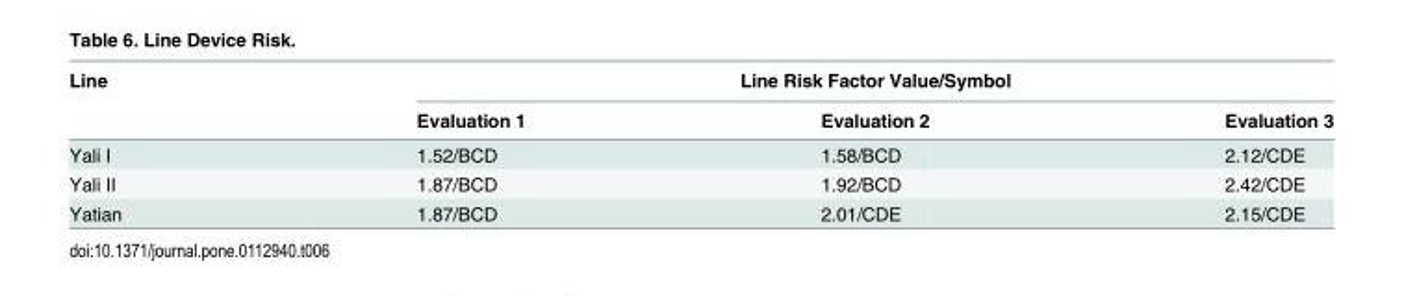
<table><thead><tr><td rowspan="2">Line</td><td colspan="3">Line Risk Factor Value/Symbol</td></tr><tr><td>Evaluation 1</td><td>Evaluation 2</td><td>Evaluation 3</td></tr></thead><tbody><tr><td>Yali I</td><td>1.52/BCD</td><td>1.58/BCD</td><td>2.12/CDE</td></tr><tr><td>Yali II</td><td>1.87/BCD</td><td>1.92/BCD</td><td>2.42/CDE</td></tr><tr><td>Yatian</td><td>1.87/BCD</td><td>2.01/CDE</td><td>2.15/CDE</td></tr></tbody></table>